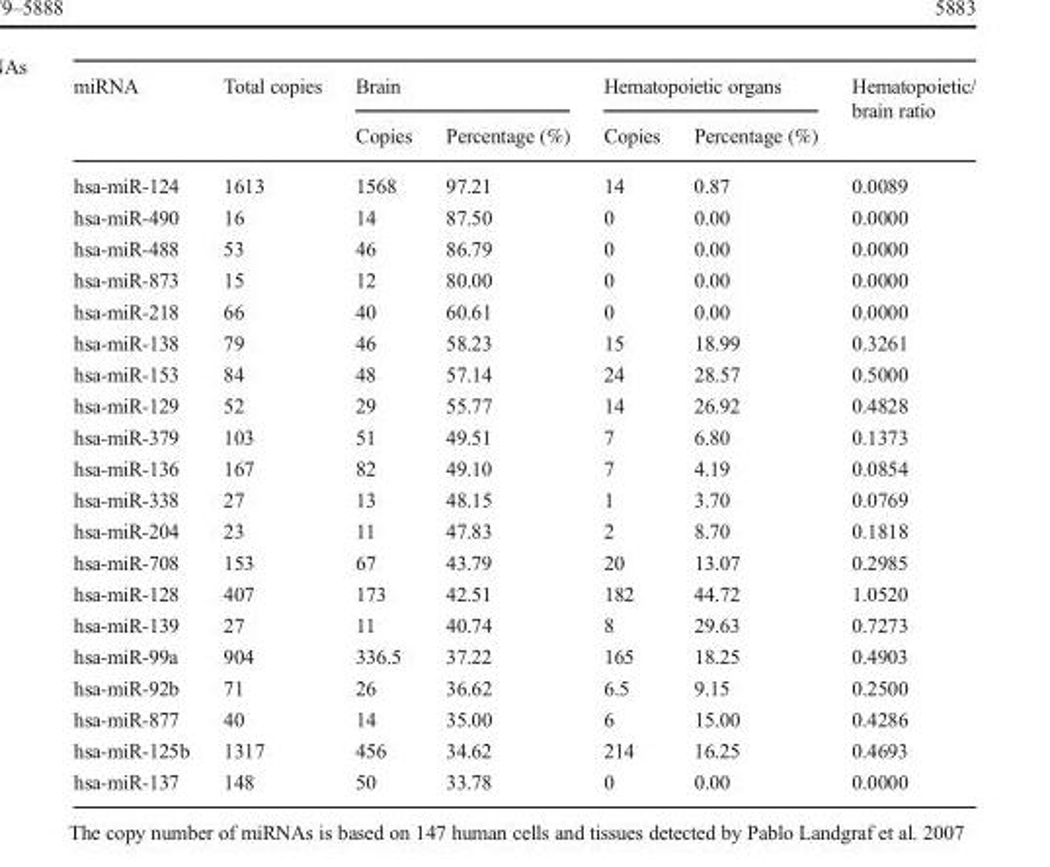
<table><thead><tr><td rowspan="2">miRNA</td><td rowspan="2">Total copies</td><td colspan="2">Brain</td><td colspan="2">Hematopoietic organs</td><td rowspan="2">Hematopoietic/ brain ratio</td></tr><tr><td>Copies</td><td>Percentage (%)</td><td>Copies</td><td>Percentage (%)</td></tr></thead><tbody><tr><td>hsa-miR-124</td><td>1613</td><td>1568</td><td>97.21</td><td>14</td><td>0.87</td><td>0.0089</td></tr><tr><td>hsa-miR-490</td><td>16</td><td>14</td><td>87.50</td><td>0</td><td>0.00</td><td>0.0000</td></tr><tr><td>hsa-miR-488</td><td>53</td><td>46</td><td>86.79</td><td>0</td><td>0.00</td><td>0.0000</td></tr><tr><td>hsa-miR-873</td><td>15</td><td>12</td><td>80.00</td><td>0</td><td>0.00</td><td>0.0000</td></tr><tr><td>hsa-miR-218</td><td>66</td><td>40</td><td>60.61</td><td>0</td><td>0.00</td><td>0.0000</td></tr><tr><td>hsa-miR-138</td><td>79</td><td>46</td><td>58.23</td><td>15</td><td>18.99</td><td>0.3261</td></tr><tr><td>hsa-miR-153</td><td>84</td><td>48</td><td>57.14</td><td>24</td><td>28.57</td><td>0.5000</td></tr><tr><td>hsa-miR-129</td><td>52</td><td>29</td><td>55.77</td><td>14</td><td>26.92</td><td>0.4828</td></tr><tr><td>hsa-miR-379</td><td>103</td><td>51</td><td>49.51</td><td>7</td><td>6.80</td><td>0.1373</td></tr><tr><td>hsa-miR-136</td><td>167</td><td>82</td><td>49.10</td><td>7</td><td>4.19</td><td>0.0854</td></tr><tr><td>hsa-miR-338</td><td>27</td><td>13</td><td>48.15</td><td>1</td><td>3.70</td><td>0.0769</td></tr><tr><td>hsa-miR-204</td><td>23</td><td>11</td><td>47.83</td><td>2</td><td>8.70</td><td>0.1818</td></tr><tr><td>hsa-miR-708</td><td>153</td><td>67</td><td>43.79</td><td>20</td><td>13.07</td><td>0.2985</td></tr><tr><td>hsa-miR-128</td><td>407</td><td>173</td><td>42.51</td><td>182</td><td>44.72</td><td>1.0520</td></tr><tr><td>hsa-miR-139</td><td>27</td><td>11</td><td>40.74</td><td>8</td><td>29.63</td><td>0.7273</td></tr><tr><td>hsa-miR-99a</td><td>904</td><td>336.5</td><td>37.22</td><td>165</td><td>18.25</td><td>0.4903</td></tr><tr><td>hsa-miR-92b</td><td>71</td><td>26</td><td>36.62</td><td>6.5</td><td>9.15</td><td>0.2500</td></tr><tr><td>hsa-miR-877</td><td>40</td><td>14</td><td>35.00</td><td>6</td><td>15.00</td><td>0.4286</td></tr><tr><td>hsa-miR-125b</td><td>1317</td><td>456</td><td>34.62</td><td>214</td><td>16.25</td><td>0.4693</td></tr><tr><td>hsa-miR-137</td><td>148</td><td>50</td><td>33.78</td><td>0</td><td>0.00</td><td>0.0000</td></tr></tbody></table>